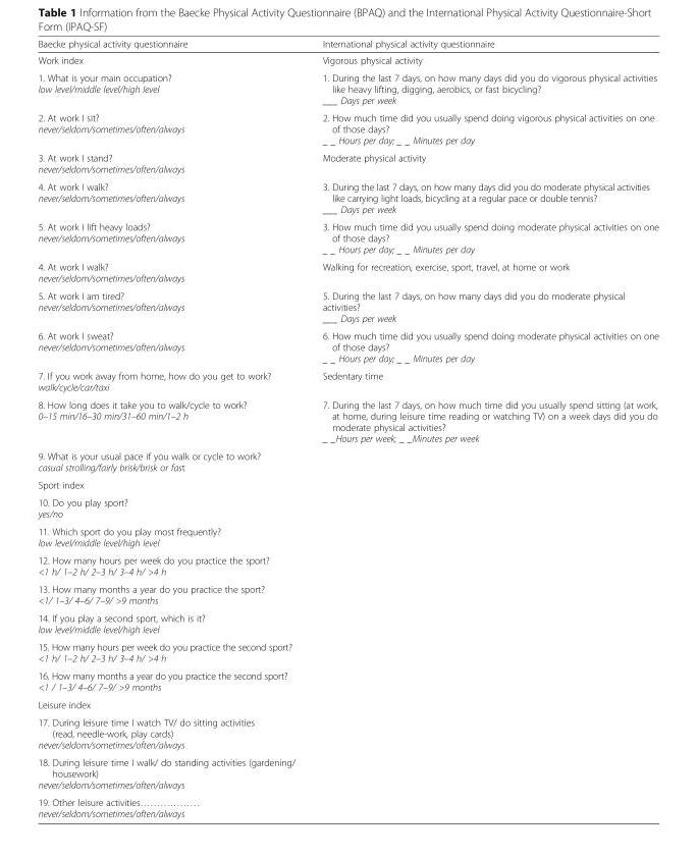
<table><thead><tr><td>Baecke physical activity questionnaire</td><td>International physical activity questionnaire</td></tr></thead><tbody><tr><td>Work index</td><td>Vigorous physical activity</td></tr><tr><td>1. What is your main occupation? low level/middle level/high level</td><td>1. During the last 7 days, on how many days did you do vigorous physical activities like heavy lifting, digging, aerobics, or fast bicycling? ___ Days per week</td></tr><tr><td>2. At work I sit? never/seldom/sometimes/often/always</td><td>2. How much time did you usually spend doing vigorous physical activities on one of those days? _ _ Hours per day; _ _ Minutes per day</td></tr><tr><td>3. At work I stand? never/seldom/sometimes/often/always</td><td>Moderate physical activity</td></tr><tr><td>4. At work I walk? never/seldom/sometimes/often/always</td><td>3. During the last 7 days, on how many days did you do moderate physical activities like carrying light loads, bicycling at a regular pace or double tennis? ___ Days per week</td></tr><tr><td>5. At work I lift heavy loads? never/seldom/sometimes/often/always</td><td>3. How much time did you usually spend doing moderate physical activities on one of those days? _ _ Hours per day; _ _ Minutes per day</td></tr><tr><td>4. At work I walk? never/seldom/sometimes/often/always</td><td>Walking for recreation, exercise, sport, travel, at home or work</td></tr><tr><td>5. At work I am tired? never/seldom/sometimes/often/always</td><td>5. During the last 7 days, on how many days did you do moderate physical activities? ___ Days per week</td></tr><tr><td>6. At work I sweat? never/seldom/sometimes/often/always</td><td>6. How much time did you usually spend doing moderate physical activities on one of those days? _ _ Hours per day; _ _ Minutes per day</td></tr><tr><td>7. If you work away from home, how do you get to work? walk/cycle/car/taxi</td><td>Sedentary time</td></tr><tr><td>8. How long does it take you to walk/cycle to work? 0–15 min/16–30 min/31–60 min/1–2 h</td><td>7. During the last 7 days, on how much time did you usually spend sitting (at work, at home, during leisure time reading or watching TV) on a week days did you do moderate physical activities? _ _Hours per week; _ _Minutes per week</td></tr><tr><td colspan="2">9. What is your usual pace if you walk or cycle to work? casual strolling/fairly brisk/brisk or fast</td></tr><tr><td colspan="2">Sport index</td></tr><tr><td colspan="2">10. Do you play sport? yes/no</td></tr><tr><td colspan="2">11. Which sport do you play most frequently? low level/middle level/high level</td></tr><tr><td colspan="2">12. How many hours per week do you practice the sport? &lt;1 h/ 1–2 h/ 2–3 h/ 3–4 h/ &gt;4 h</td></tr><tr><td colspan="2">13. How many months a year do you practice the sport? &lt;1/ 1–3/ 4–6/ 7–9/ &gt;9 months</td></tr><tr><td colspan="2">14. If you play a second sport, which is it? low level/middle level/high level</td></tr><tr><td colspan="2">15. How many hours per week do you practice the second sport? &lt;1 h/ 1–2 h/ 2–3 h/ 3–4 h/ &gt;4 h</td></tr><tr><td colspan="2">16. How many months a year do you practice the second sport? &lt;1 / 1–3/ 4–6/ 7–9/ &gt;9 months</td></tr><tr><td colspan="2">Leisure index</td></tr><tr><td colspan="2">17. During leisure time I watch TV/ do sitting activities (read, needle-work, play cards) never/seldom/sometimes/often/always</td></tr><tr><td colspan="2">18. During leisure time I walk/ do standing activities (gardening/ housework) never/seldom/sometimes/often/always</td></tr><tr><td>19. Other leisure activities……………… never/seldom/sometimes/often/always</td><td></td></tr></tbody></table>